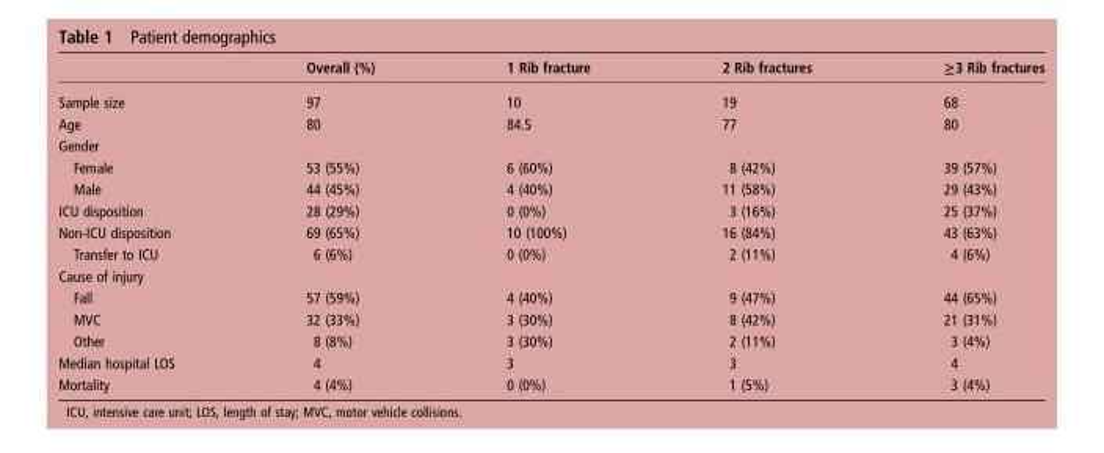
<table><thead><tr><td></td><td>Overall (%)</td><td>1 Rib fracture</td><td>2 Rib fractures</td><td>≥3 Rib fractures</td></tr></thead><tbody><tr><td>Sample size</td><td>97</td><td>10</td><td>19</td><td>68</td></tr><tr><td>Age</td><td>80</td><td>84.5</td><td>77</td><td>80</td></tr><tr><td colspan="5">Gender</td></tr><tr><td>Female</td><td>53 (55%)</td><td>6 (60%)</td><td>8 (42%)</td><td>39 (57%)</td></tr><tr><td>Male</td><td>44 (45%)</td><td>4 (40%)</td><td>11 (58%)</td><td>29 (43%)</td></tr><tr><td>ICU disposition</td><td>28 (29%)</td><td>0 (0%)</td><td>3 (16%)</td><td>25 (37%)</td></tr><tr><td>Non-ICU disposition</td><td>69 (65%)</td><td>10 (100%)</td><td>16 (84%)</td><td>43 (63%)</td></tr><tr><td>Transfer to ICU</td><td>6 (6%)</td><td>0 (0%)</td><td>2 (11%)</td><td>4 (6%)</td></tr><tr><td colspan="5">Cause of injury</td></tr><tr><td>Fall</td><td>57 (59%)</td><td>4 (40%)</td><td>9 (47%)</td><td>44 (65%)</td></tr><tr><td>MVC</td><td>32 (33%)</td><td>3 (30%)</td><td>8 (42%)</td><td>21 (31%)</td></tr><tr><td>Other</td><td>8 (8%)</td><td>3 (30%)</td><td>2 (11%)</td><td>3 (4%)</td></tr><tr><td>Median hospital LOS</td><td>4</td><td>3</td><td>3</td><td>4</td></tr><tr><td>Mortality</td><td>4 (4%)</td><td>0 (0%)</td><td>1 (5%)</td><td>3 (4%)</td></tr></tbody></table>